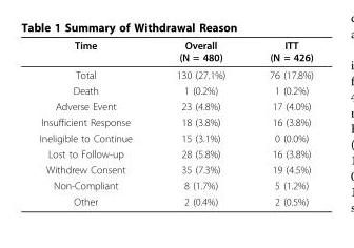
<table><thead><tr><td>Time</td><td>Overall (N = 480)</td><td>ITT (N = 426)</td></tr></thead><tbody><tr><td>Total</td><td>130 (27.1%)</td><td>76 (17.8%)</td></tr><tr><td>Death</td><td>1 (0.2%)</td><td>1 (0.2%)</td></tr><tr><td>Adverse Event</td><td>23 (4.8%)</td><td>17 (4.0%)</td></tr><tr><td>Insufficient Response</td><td>18 (3.8%)</td><td>16 (3.8%)</td></tr><tr><td>Ineligible to Continue</td><td>15 (3.1%)</td><td>0 (0.0%)</td></tr><tr><td>Lost to Follow-up</td><td>28 (5.8%)</td><td>16 (3.8%)</td></tr><tr><td>Withdrew Consent</td><td>35 (7.3%)</td><td>19 (4.5%)</td></tr><tr><td>Non-Compliant</td><td>8 (1.7%)</td><td>5 (1.2%)</td></tr><tr><td>Other</td><td>2 (0.4%)</td><td>2 (0.5%)</td></tr></tbody></table>